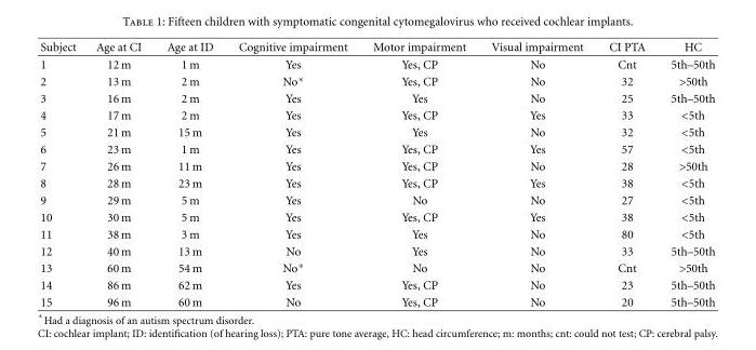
<table><thead><tr><td>Subject</td><td>Age at CI</td><td>Age at ID</td><td>Cognitive impairment</td><td>Motor impairment</td><td>Visual impairment</td><td>CI PTA</td><td>HC</td></tr></thead><tbody><tr><td>1</td><td>12 m</td><td>1 m</td><td>Yes</td><td>Yes, CP</td><td>No</td><td>Cnt</td><td>5th–50th</td></tr><tr><td>2</td><td>13 m</td><td>2 m</td><td>No∗</td><td>Yes, CP</td><td>No</td><td>32</td><td>&gt;50th</td></tr><tr><td>3</td><td>16 m</td><td>2 m</td><td>Yes</td><td>Yes</td><td>No</td><td>25</td><td>5th–50th</td></tr><tr><td>4</td><td>17 m</td><td>2 m</td><td>Yes</td><td>Yes, CP</td><td>Yes</td><td>33</td><td>&lt;5th</td></tr><tr><td>5</td><td>21 m</td><td>15 m</td><td>Yes</td><td>Yes</td><td>No</td><td>32</td><td>&lt;5th</td></tr><tr><td>6</td><td>23 m</td><td>1 m</td><td>Yes</td><td>Yes, CP</td><td>Yes</td><td>57</td><td>&lt;5th</td></tr><tr><td>7</td><td>26 m</td><td>11 m</td><td>Yes</td><td>Yes, CP</td><td>No</td><td>28</td><td>&gt;50th</td></tr><tr><td>8</td><td>28 m</td><td>23 m</td><td>Yes</td><td>Yes, CP</td><td>Yes</td><td>38</td><td>&lt;5th</td></tr><tr><td>9</td><td>29 m</td><td>5 m</td><td>Yes</td><td>No</td><td>No</td><td>27</td><td>&lt;5th</td></tr><tr><td>10</td><td>30 m</td><td>5 m</td><td>Yes</td><td>Yes, CP</td><td>Yes</td><td>38</td><td>&lt;5th</td></tr><tr><td>11</td><td>38 m</td><td>3 m</td><td>Yes</td><td>Yes</td><td>No</td><td>80</td><td>&lt;5th</td></tr><tr><td>12</td><td>40 m</td><td>13 m</td><td>No</td><td>Yes</td><td>No</td><td>33</td><td>5th–50th</td></tr><tr><td>13</td><td>60 m</td><td>54 m</td><td>No∗</td><td>No</td><td>No</td><td>Cnt</td><td>&gt;50th</td></tr><tr><td>14</td><td>86 m</td><td>62 m</td><td>Yes</td><td>Yes, CP</td><td>No</td><td>23</td><td>5th–50th</td></tr><tr><td>15</td><td>96 m</td><td>60 m</td><td>No</td><td>Yes, CP</td><td>No</td><td>20</td><td>5th–50th</td></tr></tbody></table>